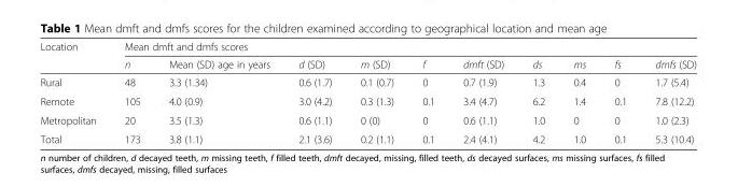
<table><thead><tr><td rowspan="2">Location</td><td colspan="10">Mean dmft and dmfs scores</td></tr><tr><td>n</td><td>Mean (SD) age in years</td><td>d (SD)</td><td>m (SD)</td><td>f</td><td>dmft (SD)</td><td>ds</td><td>ms</td><td>fs</td><td>dmfs (SD)</td></tr></thead><tbody><tr><td>Rural</td><td>48</td><td>3.3 (1.34)</td><td>0.6 (1.7)</td><td>0.1 (0.7)</td><td>0</td><td>0.7 (1.9)</td><td>1.3</td><td>0.4</td><td>0</td><td>1.7 (5.4)</td></tr><tr><td>Remote</td><td>105</td><td>4.0 (0.9)</td><td>3.0 (4.2)</td><td>0.3 (1.3)</td><td>0.1</td><td>3.4 (4.7)</td><td>6.2</td><td>1.4</td><td>0.1</td><td>7.8 (12.2)</td></tr><tr><td>Metropolitan</td><td>20</td><td>3.5 (1.3)</td><td>0.6 (1.1)</td><td>0 (0)</td><td>0</td><td>0.6 (1.1)</td><td>1.0</td><td>0</td><td>0</td><td>1.0 (2.3)</td></tr><tr><td>Total</td><td>173</td><td>3.8 (1.1)</td><td>2.1 (3.6)</td><td>0.2 (1.1)</td><td>0.1</td><td>2.4 (4.1)</td><td>4.2</td><td>1.0</td><td>0.1</td><td>5.3 (10.4)</td></tr></tbody></table>